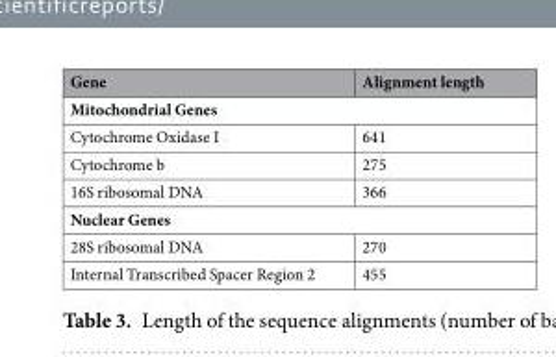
<table><thead><tr><td>Gene</td><td>Alignment length</td></tr></thead><tbody><tr><td colspan="2">Mitochondrial Genes</td></tr><tr><td>Cytochrome Oxidase I</td><td>641</td></tr><tr><td>Cytochrome b</td><td>275</td></tr><tr><td>16S ribosomal DNA</td><td>366</td></tr><tr><td colspan="2">Nuclear Genes</td></tr><tr><td>28S ribosomal DNA</td><td>270</td></tr><tr><td>Internal Transcribed Spacer Region 2</td><td>455</td></tr></tbody></table>